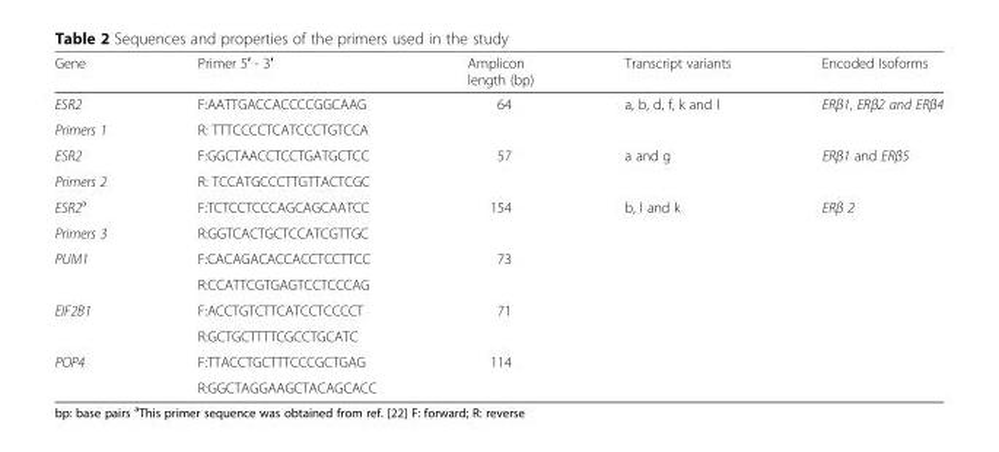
<table><thead><tr><td>Gene</td><td>Primer 5′ - 3′</td><td>Amplicon length (bp)</td><td>Transcript variants</td><td>Encoded Isoforms</td></tr></thead><tbody><tr><td>ESR2</td><td>F:AATTGACCACCCCGGCAAG</td><td rowspan="2">64</td><td rowspan="2">a, b, d, f, k and l</td><td rowspan="2">ERβ1, ERβ2 and ERβ4</td></tr><tr><td>Primers 1</td><td>R: TTTCCCCTCATCCCTGTCCA</td></tr><tr><td>ESR2</td><td>F:GGCTAACCTCCTGATGCTCC</td><td rowspan="2">57</td><td rowspan="2">a and g</td><td rowspan="2">ERβ1 and ERβ5</td></tr><tr><td>Primers 2</td><td>R: TCCATGCCCTTGTTACTCGC</td></tr><tr><td>ESR2<sup>a</sup></td><td>F:TCTCCTCCCAGCAGCAATCC</td><td rowspan="2">154</td><td rowspan="2">b, l and k</td><td rowspan="2">ERβ 2</td></tr><tr><td>Primers 3</td><td>R:GGTCACTGCTCCATCGTTGC</td></tr><tr><td rowspan="2">PUM1</td><td>F:CACAGACACCACCTCCTTCC</td><td rowspan="2">73</td><td></td><td></td></tr><tr><td>R:CCATTCGTGAGTCCTCCCAG</td><td></td><td></td></tr><tr><td rowspan="2">EIF2B1</td><td>F:ACCTGTCTTCATCCTCCCCT</td><td rowspan="2">71</td><td></td><td></td></tr><tr><td>R:GCTGCTTTTCGCCTGCATC</td><td></td><td></td></tr><tr><td rowspan="2">POP4</td><td>F:TTACCTGCTTTCCCGCTGAG</td><td rowspan="2">114</td><td></td><td></td></tr><tr><td>R:GGCTAGGAAGCTACAGCACC</td><td></td><td></td></tr></tbody></table>